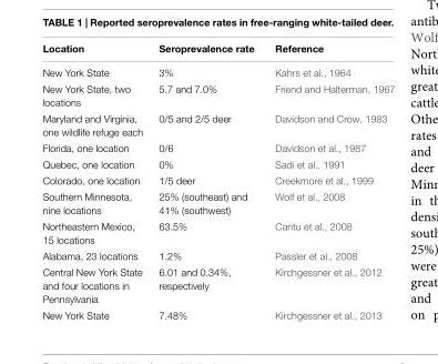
<table><thead><tr><td>Location</td><td>Seroprevalence rate</td><td>Reference</td></tr></thead><tbody><tr><td>New York State</td><td>3%</td><td>Kahrs et al., 1964</td></tr><tr><td>New York State, two locations</td><td>5.7 and 7.0%</td><td>Friend and Halterman, 1967</td></tr><tr><td>Maryland and Virginia, one wildlife refuge each</td><td>0/5 and 2/5 deer</td><td>Davidson and Crow, 1983</td></tr><tr><td>Florida, one location</td><td>0/6</td><td>Davidson et al., 1987</td></tr><tr><td>Quebec, one location</td><td>0%</td><td>Sadi et al., 1991</td></tr><tr><td>Colorado, one location</td><td>1/5 deer</td><td>Creekmore et al., 1999</td></tr><tr><td>Southern Minnesota, nine locations</td><td>25% (southeast) and 41% (southwest)</td><td>Wolf et al., 2008</td></tr><tr><td>Northeastern Mexico, 15 locations</td><td>63.5%</td><td>Cantu et al., 2008</td></tr><tr><td>Alabama, 23 locations</td><td>1.2%</td><td>Passler et al., 2008</td></tr><tr><td>Central New York State and four locations in Pennsylvania</td><td>6.01 and 0.34%, respectively</td><td>Kirchgessner et al., 2012</td></tr><tr><td>New York State</td><td>7.48%</td><td>Kirchgessner et al., 2013</td></tr></tbody></table>